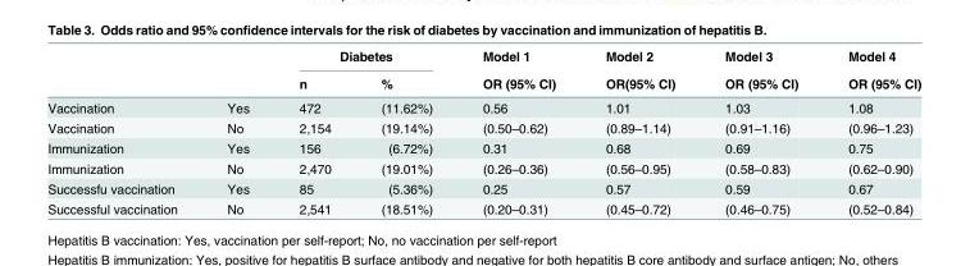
<table><thead><tr><td rowspan="2"></td><td rowspan="2"></td><td colspan="2">Diabetes</td><td rowspan="2">Model 1 OR (95% CI)</td><td rowspan="2">Model 2 OR(95% CI)</td><td rowspan="2">Model 3 OR (95% CI)</td><td rowspan="2">Model 4 OR (95% CI)</td></tr><tr><td>n</td><td>%</td></tr></thead><tbody><tr><td>Vaccination</td><td>Yes</td><td>472</td><td>(11.62%)</td><td>0.56</td><td>1.01</td><td>1.03</td><td>1.08</td></tr><tr><td>Vaccination</td><td>No</td><td>2,154</td><td>(19.14%)</td><td>(0.50–0.62)</td><td>(0.89–1.14)</td><td>(0.91–1.16)</td><td>(0.96–1.23)</td></tr><tr><td>Immunization</td><td>Yes</td><td>156</td><td>(6.72%)</td><td>0.31</td><td>0.68</td><td>0.69</td><td>0.75</td></tr><tr><td>Immunization</td><td>No</td><td>2,470</td><td>(19.01%)</td><td>(0.26–0.36)</td><td>(0.56–0.95)</td><td>(0.58–0.83)</td><td>(0.62–0.90)</td></tr><tr><td>Successfu vaccination</td><td>Yes</td><td>85</td><td>(5.36%)</td><td>0.25</td><td>0.57</td><td>0.59</td><td>0.67</td></tr><tr><td>Successful vaccination</td><td>No</td><td>2,541</td><td>(18.51%)</td><td>(0.20–0.31)</td><td>(0.45–0.72)</td><td>(0.46–0.75)</td><td>(0.52–0.84)</td></tr></tbody></table>